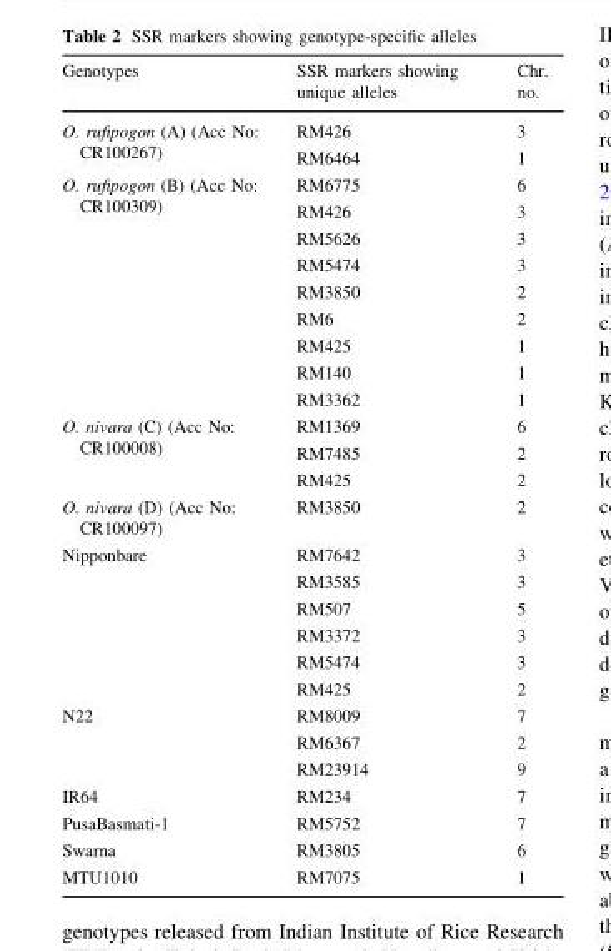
<table><thead><tr><td>Genotypes</td><td>SSR markers showing unique alleles</td><td>Chr. no.</td></tr></thead><tbody><tr><td rowspan="2">O. rufipogon (A) (Acc No: CR100267)</td><td>RM426</td><td>3</td></tr><tr><td>RM6464</td><td>1</td></tr><tr><td rowspan="9">O. rufipogon (B) (Acc No: CR100309)</td><td>RM6775</td><td>6</td></tr><tr><td>RM426</td><td>3</td></tr><tr><td>RM5626</td><td>3</td></tr><tr><td>RM5474</td><td>3</td></tr><tr><td>RM3850</td><td>2</td></tr><tr><td>RM6</td><td>2</td></tr><tr><td>RM425</td><td>1</td></tr><tr><td>RM140</td><td>1</td></tr><tr><td>RM3362</td><td>1</td></tr><tr><td rowspan="3">O. nivara (C) (Acc No: CR100008)</td><td>RM1369</td><td>6</td></tr><tr><td>RM7485</td><td>2</td></tr><tr><td>RM425</td><td>2</td></tr><tr><td>O. nivara (D) (Acc No: CR100097)</td><td>RM3850</td><td>2</td></tr><tr><td rowspan="6">Nipponbare</td><td>RM7642</td><td>3</td></tr><tr><td>RM3585</td><td>3</td></tr><tr><td>RM507</td><td>5</td></tr><tr><td>RM3372</td><td>3</td></tr><tr><td>RM5474</td><td>3</td></tr><tr><td>RM425</td><td>2</td></tr><tr><td rowspan="3">N22</td><td>RM8009</td><td>7</td></tr><tr><td>RM6367</td><td>2</td></tr><tr><td>RM23914</td><td>9</td></tr><tr><td>IR64</td><td>RM234</td><td>7</td></tr><tr><td>PusaBasmati-1</td><td>RM5752</td><td>7</td></tr><tr><td>Swarna</td><td>RM3805</td><td>6</td></tr><tr><td>MTU1010</td><td>RM7075</td><td>1</td></tr></tbody></table>